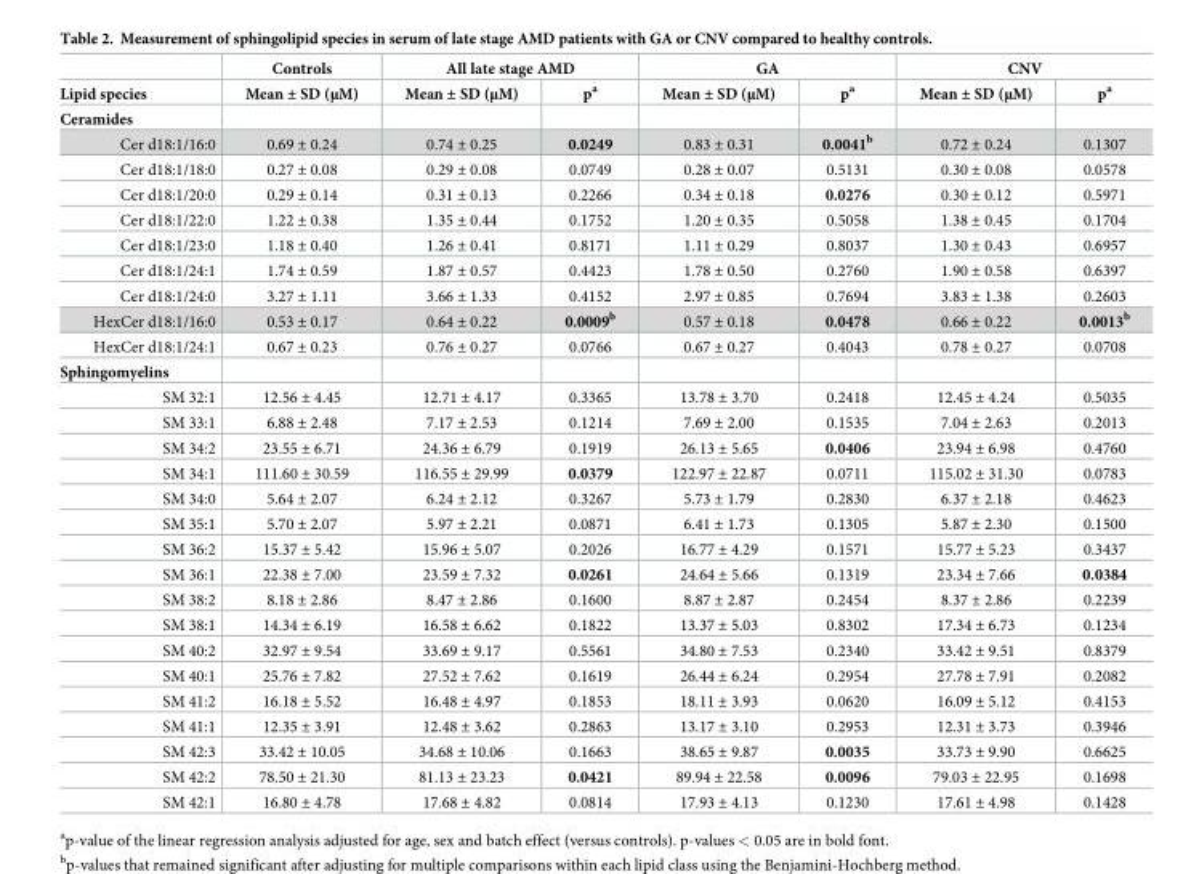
<table><thead><tr><td rowspan="2">Lipid species</td><td rowspan="2">Controls Mean ± SD (μM)</td><td colspan="2">All late stage AMD</td><td colspan="2">GA</td><td colspan="2">CNV</td></tr><tr><td>Mean ± SD (μM)</td><td>p<sup>a</sup></td><td>Mean ± SD (μM)</td><td>p<sup>a</sup></td><td>Mean ± SD (μM)</td><td>p<sup>a</sup></td></tr></thead><tbody><tr><td colspan="8">Ceramides</td></tr><tr><td>Cer d18:1/16:0</td><td>0.69 ± 0.24</td><td>0.74 ± 0.25</td><td>0.0249</td><td>0.83 ± 0.31</td><td>0.0041<sup>b</sup></td><td>0.72 ± 0.24</td><td>0.1307</td></tr><tr><td>Cer d18:1/18:0</td><td>0.27 ± 0.08</td><td>0.29 ± 0.08</td><td>0.0749</td><td>0.28 ± 0.07</td><td>0.5131</td><td>0.30 ± 0.08</td><td>0.0578</td></tr><tr><td>Cer d18:1/20:0</td><td>0.29 ± 0.14</td><td>0.31 ± 0.13</td><td>0.2266</td><td>0.34 ± 0.18</td><td>0.0276</td><td>0.30 ± 0.12</td><td>0.5971</td></tr><tr><td>Cer d18:1/22:0</td><td>1.22 ± 0.38</td><td>1.35 ± 0.44</td><td>0.1752</td><td>1.20 ± 0.35</td><td>0.5058</td><td>1.38 ± 0.45</td><td>0.1704</td></tr><tr><td>Cer d18:1/23:0</td><td>1.18 ± 0.40</td><td>1.26 ± 0.41</td><td>0.8171</td><td>1.11 ± 0.29</td><td>0.8037</td><td>1.30 ± 0.43</td><td>0.6957</td></tr><tr><td>Cer d18:1/24:1</td><td>1.74 ± 0.59</td><td>1.87 ± 0.57</td><td>0.4423</td><td>1.78 ± 0.50</td><td>0.2760</td><td>1.90 ± 0.58</td><td>0.6397</td></tr><tr><td>Cer d18:1/24:0</td><td>3.27 ± 1.11</td><td>3.66 ± 1.33</td><td>0.4152</td><td>2.97 ± 0.85</td><td>0.7694</td><td>3.83 ± 1.38</td><td>0.2603</td></tr><tr><td>HexCer d18:1/16:0</td><td>0.53 ± 0.17</td><td>0.64 ± 0.22</td><td>0.0009<sup>b</sup></td><td>0.57 ± 0.18</td><td>0.0478</td><td>0.66 ± 0.22</td><td>0.0013<sup>b</sup></td></tr><tr><td>HexCer d18:1/24:1</td><td>0.67 ± 0.23</td><td>0.76 ± 0.27</td><td>0.0766</td><td>0.67 ± 0.27</td><td>0.4043</td><td>0.78 ± 0.27</td><td>0.0708</td></tr><tr><td colspan="8">Sphingomyelins</td></tr><tr><td>SM 32:1</td><td>12.56 ± 4.45</td><td>12.71 ± 4.17</td><td>0.3365</td><td>13.78 ± 3.70</td><td>0.2418</td><td>12.45 ± 4.24</td><td>0.5035</td></tr><tr><td>SM 33:1</td><td>6.88 ± 2.48</td><td>7.17 ± 2.53</td><td>0.1214</td><td>7.69 ± 2.00</td><td>0.1535</td><td>7.04 ± 2.63</td><td>0.2013</td></tr><tr><td>SM 34:2</td><td>23.55 ± 6.71</td><td>24.36 ± 6.79</td><td>0.1919</td><td>26.13 ± 5.65</td><td>0.0406</td><td>23.94 ± 6.98</td><td>0.4760</td></tr><tr><td>SM 34:1</td><td>111.60 ± 30.59</td><td>116.55 ± 29.99</td><td>0.0379</td><td>122.97 ± 22.87</td><td>0.0711</td><td>115.02 ± 31.30</td><td>0.0783</td></tr><tr><td>SM 34:0</td><td>5.64 ± 2.07</td><td>6.24 ± 2.12</td><td>0.3267</td><td>5.73 ± 1.79</td><td>0.2830</td><td>6.37 ± 2.18</td><td>0.4623</td></tr><tr><td>SM 35:1</td><td>5.70 ± 2.07</td><td>5.97 ± 2.21</td><td>0.0871</td><td>6.41 ± 1.73</td><td>0.1305</td><td>5.87 ± 2.30</td><td>0.1500</td></tr><tr><td>SM 36:2</td><td>15.37 ± 5.42</td><td>15.96 ± 5.07</td><td>0.2026</td><td>16.77 ± 4.29</td><td>0.1571</td><td>15.77 ± 5.23</td><td>0.3437</td></tr><tr><td>SM 36:1</td><td>22.38 ± 7.00</td><td>23.59 ± 7.32</td><td>0.0261</td><td>24.64 ± 5.66</td><td>0.1319</td><td>23.34 ± 7.66</td><td>0.0384</td></tr><tr><td>SM 38:2</td><td>8.18 ± 2.86</td><td>8.47 ± 2.86</td><td>0.1600</td><td>8.87 ± 2.87</td><td>0.2454</td><td>8.37 ± 2.86</td><td>0.2239</td></tr><tr><td>SM 38:1</td><td>14.34 ± 6.19</td><td>16.58 ± 6.62</td><td>0.1822</td><td>13.37 ± 5.03</td><td>0.8302</td><td>17.34 ± 6.73</td><td>0.1234</td></tr><tr><td>SM 40:2</td><td>32.97 ± 9.54</td><td>33.69 ± 9.17</td><td>0.5561</td><td>34.80 ± 7.53</td><td>0.2340</td><td>33.42 ± 9.51</td><td>0.8379</td></tr><tr><td>SM 40:1</td><td>25.76 ± 7.82</td><td>27.52 ± 7.62</td><td>0.1619</td><td>26.44 ± 6.24</td><td>0.2954</td><td>27.78 ± 7.91</td><td>0.2082</td></tr><tr><td>SM 41:2</td><td>16.18 ± 5.52</td><td>16.48 ± 4.97</td><td>0.1853</td><td>18.11 ± 3.93</td><td>0.0620</td><td>16.09 ± 5.12</td><td>0.4153</td></tr><tr><td>SM 41:1</td><td>12.35 ± 3.91</td><td>12.48 ± 3.62</td><td>0.2863</td><td>13.17 ± 3.10</td><td>0.2953</td><td>12.31 ± 3.73</td><td>0.3946</td></tr><tr><td>SM 42:3</td><td>33.42 ± 10.05</td><td>34.68 ± 10.06</td><td>0.1663</td><td>38.65 ± 9.87</td><td>0.0035</td><td>33.73 ± 9.90</td><td>0.6625</td></tr><tr><td>SM 42:2</td><td>78.50 ± 21.30</td><td>81.13 ± 23.23</td><td>0.0421</td><td>89.94 ± 22.58</td><td>0.0096</td><td>79.03 ± 22.95</td><td>0.1698</td></tr><tr><td>SM 42:1</td><td>16.80 ± 4.78</td><td>17.68 ± 4.82</td><td>0.0814</td><td>17.93 ± 4.13</td><td>0.1230</td><td>17.61 ± 4.98</td><td>0.1428</td></tr></tbody></table>